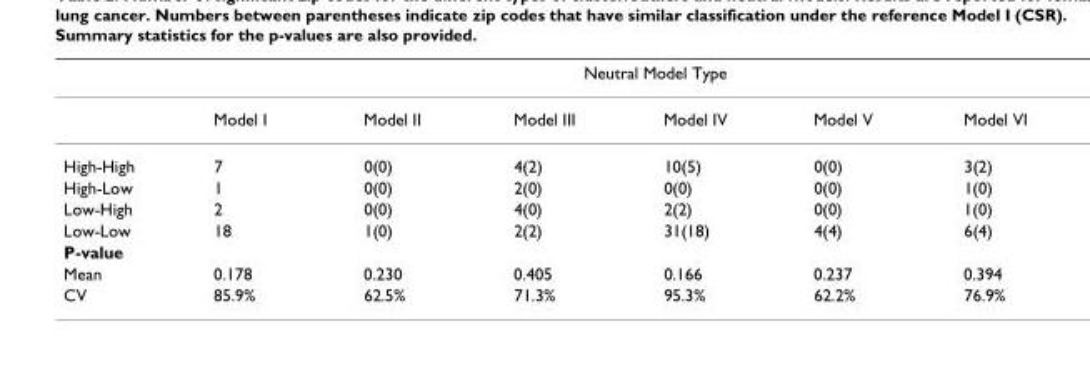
<table><thead><tr><td rowspan="2"></td><td colspan="6">Neutral Model Type</td></tr><tr><td>Model I</td><td>Model II</td><td>Model III</td><td>Model IV</td><td>Model V</td><td>Model VI</td></tr></thead><tbody><tr><td>High-High</td><td>7</td><td>0(0)</td><td>4(2)</td><td>10(5)</td><td>0(0)</td><td>3(2)</td></tr><tr><td>High-Low</td><td>1</td><td>0(0)</td><td>2(0)</td><td>0(0)</td><td>0(0)</td><td>1(0)</td></tr><tr><td>Low-High</td><td>2</td><td>0(0)</td><td>4(0)</td><td>2(2)</td><td>0(0)</td><td>1(0)</td></tr><tr><td>Low-Low</td><td>18</td><td>1(0)</td><td>2(2)</td><td>31(18)</td><td>4(4)</td><td>6(4)</td></tr><tr><td colspan="7">P-value</td></tr><tr><td>Mean</td><td>0.178</td><td>0.230</td><td>0.405</td><td>0.166</td><td>0.237</td><td>0.394</td></tr><tr><td>CV</td><td>85.9%</td><td>62.5%</td><td>71.3%</td><td>95.3%</td><td>62.2%</td><td>76.9%</td></tr></tbody></table>